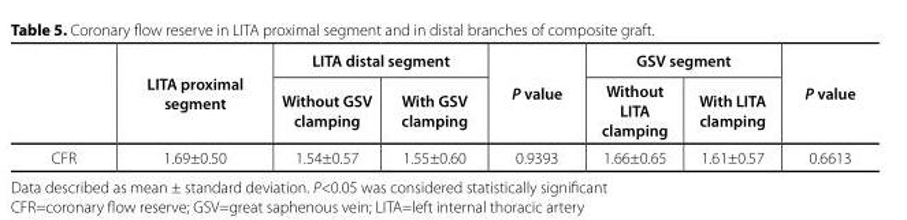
<table><thead><tr><td rowspan="2"></td><td rowspan="2">LITA proximal segment</td><td colspan="2">LITA distal segment</td><td rowspan="2">P value</td><td colspan="2">GSV segment</td><td rowspan="2">P value</td></tr><tr><td>Without GSV clamping</td><td>With GSV clamping</td><td>Without LITA clamping</td><td>With LITA clamping</td></tr></thead><tbody><tr><td>CFR</td><td>1.69±0.50</td><td>1.54±0.57</td><td>1.55±0.60</td><td>0.9393</td><td>1.66±0.65</td><td>1.61±0.57</td><td>0.6613</td></tr></tbody></table>